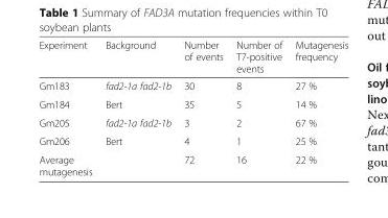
<table><thead><tr><td>Experiment</td><td>Background</td><td>Number of events</td><td>Number of T7-positive events</td><td>Mutagenesis frequency</td></tr></thead><tbody><tr><td>Gm183</td><td>fad2-1a fad2-1b</td><td>30</td><td>8</td><td>27 %</td></tr><tr><td>Gm184</td><td>Bert</td><td>35</td><td>5</td><td>14 %</td></tr><tr><td>Gm205</td><td>fad2-1a fad2-1b</td><td>3</td><td>2</td><td>67 %</td></tr><tr><td>Gm206</td><td>Bert</td><td>4</td><td>1</td><td>25 %</td></tr><tr><td>Average mutagenesis</td><td></td><td>72</td><td>16</td><td>22 %</td></tr></tbody></table>